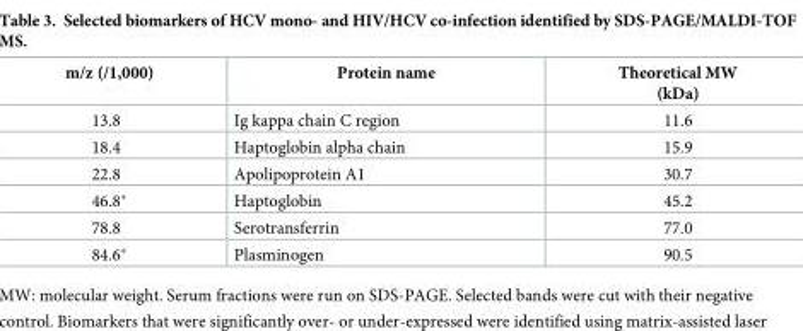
<table><thead><tr><td>m/z (/1,000)</td><td>Protein name</td><td>Theoretical MW (kDa)</td></tr></thead><tbody><tr><td>13.8</td><td>Ig kappa chain C region</td><td>11.6</td></tr><tr><td>18.4</td><td>Haptoglobin alpha chain</td><td>15.9</td></tr><tr><td>22.8</td><td>Apolipoprotein A1</td><td>30.7</td></tr><tr><td>46.8*</td><td>Haptoglobin</td><td>45.2</td></tr><tr><td>78.8</td><td>Serotransferrin</td><td>77.0</td></tr><tr><td>84.6*</td><td>Plasminogen</td><td>90.5</td></tr></tbody></table>